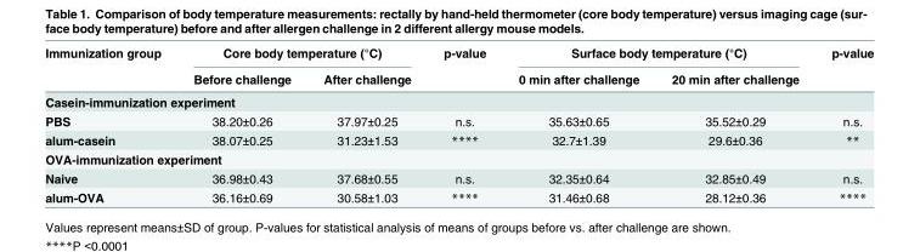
<table><thead><tr><td rowspan="2">Immunization group</td><td colspan="2">Core body temperature (°C)</td><td rowspan="2">p-value</td><td colspan="2">Surface body temperature (°C)</td><td rowspan="2">p-value</td></tr><tr><td>Before challenge</td><td>After challenge</td><td>0 min after challenge</td><td>20 min after challenge</td></tr></thead><tbody><tr><td colspan="7">Casein-immunization experiment</td></tr><tr><td>PBS</td><td>38.20±0.26</td><td>37.97±0.25</td><td>n.s.</td><td>35.63±0.65</td><td>35.52±0.29</td><td>n.s.</td></tr><tr><td>alum-casein</td><td>38.07±0.25</td><td>31.23±1.53</td><td>****</td><td>32.7±1.39</td><td>29.6±0.36</td><td>**</td></tr><tr><td colspan="7">OVA-immunization experiment</td></tr><tr><td>Naive</td><td>36.98±0.43</td><td>37.68±0.55</td><td>n.s.</td><td>32.35±0.64</td><td>32.85±0.49</td><td>n.s.</td></tr><tr><td>alum-OVA</td><td>36.16±0.69</td><td>30.58±1.03</td><td>****</td><td>31.46±0.68</td><td>28.12±0.36</td><td>****</td></tr></tbody></table>